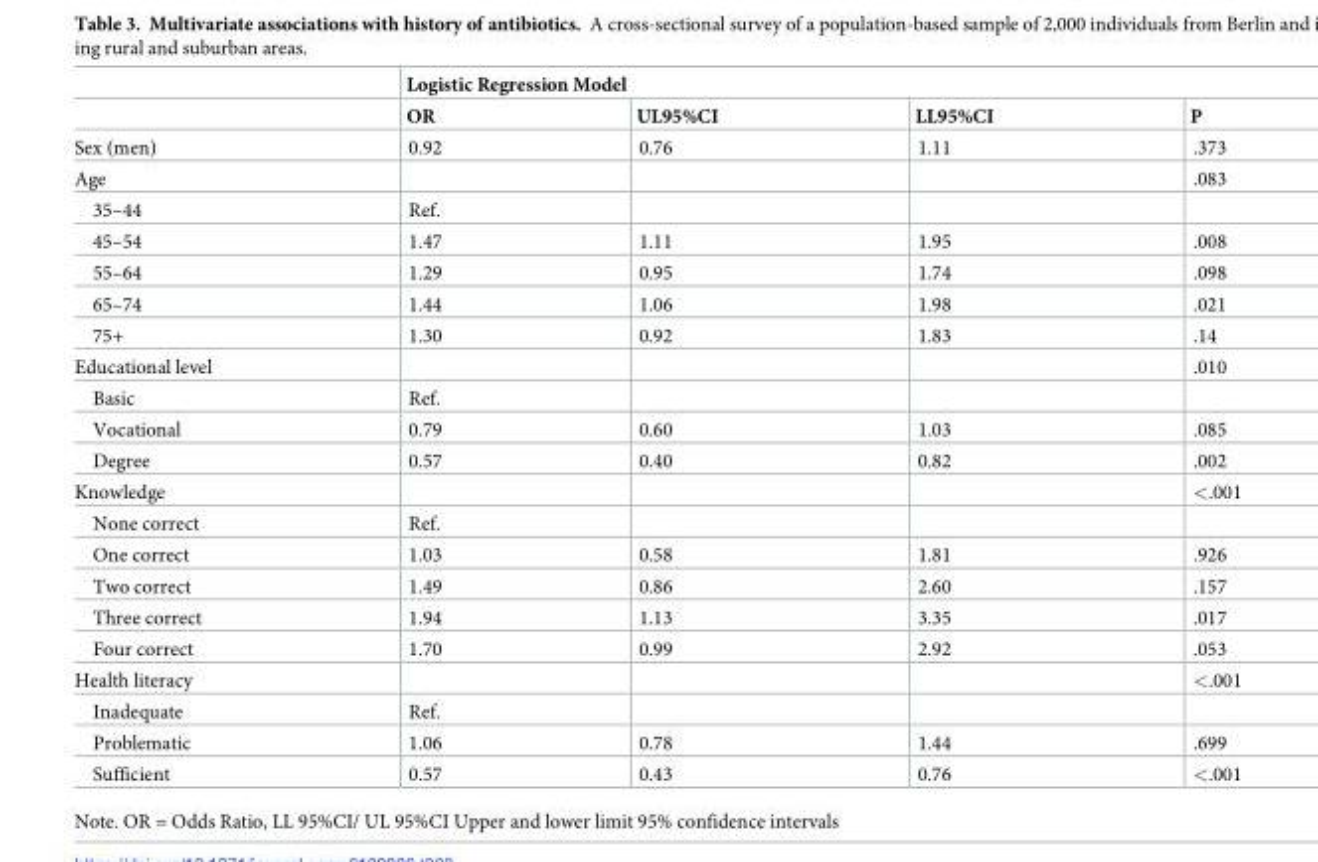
<table><thead><tr><td rowspan="2"></td><td colspan="4">Logistic Regression Model</td></tr><tr><td>OR</td><td>UL95%CI</td><td>LL95%CI</td><td>P</td></tr></thead><tbody><tr><td>Sex (men)</td><td>0.92</td><td>0.76</td><td>1.11</td><td>.373</td></tr><tr><td>Age</td><td></td><td></td><td></td><td>.083</td></tr><tr><td>35–44</td><td>Ref.</td><td></td><td></td><td></td></tr><tr><td>45–54</td><td>1.47</td><td>1.11</td><td>1.95</td><td>.008</td></tr><tr><td>55–64</td><td>1.29</td><td>0.95</td><td>1.74</td><td>.098</td></tr><tr><td>65–74</td><td>1.44</td><td>1.06</td><td>1.98</td><td>.021</td></tr><tr><td>75+</td><td>1.30</td><td>0.92</td><td>1.83</td><td>.14</td></tr><tr><td>Educational level</td><td></td><td></td><td></td><td>.010</td></tr><tr><td>Basic</td><td>Ref.</td><td></td><td></td><td></td></tr><tr><td>Vocational</td><td>0.79</td><td>0.60</td><td>1.03</td><td>.085</td></tr><tr><td>Degree</td><td>0.57</td><td>0.40</td><td>0.82</td><td>.002</td></tr><tr><td>Knowledge</td><td></td><td></td><td></td><td>&lt;.001</td></tr><tr><td>None correct</td><td>Ref.</td><td></td><td></td><td></td></tr><tr><td>One correct</td><td>1.03</td><td>0.58</td><td>1.81</td><td>.926</td></tr><tr><td>Two correct</td><td>1.49</td><td>0.86</td><td>2.60</td><td>.157</td></tr><tr><td>Three correct</td><td>1.94</td><td>1.13</td><td>3.35</td><td>.017</td></tr><tr><td>Four correct</td><td>1.70</td><td>0.99</td><td>2.92</td><td>.053</td></tr><tr><td>Health literacy</td><td></td><td></td><td></td><td>&lt;.001</td></tr><tr><td>Inadequate</td><td>Ref.</td><td></td><td></td><td></td></tr><tr><td>Problematic</td><td>1.06</td><td>0.78</td><td>1.44</td><td>.699</td></tr><tr><td>Sufficient</td><td>0.57</td><td>0.43</td><td>0.76</td><td>&lt;.001</td></tr></tbody></table>